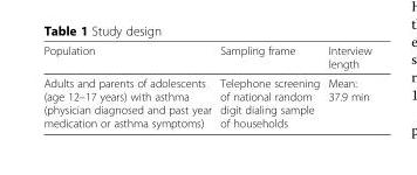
<table><thead><tr><td>Population</td><td>Sampling frame</td><td>Interview length</td></tr></thead><tbody><tr><td>Adults and parents of adolescents (age 12–17 years) with asthma (physician diagnosed and past year medication or asthma symptoms)</td><td>Telephone screening of national random digit dialing sample of households</td><td>Mean: 37.9 min</td></tr></tbody></table>